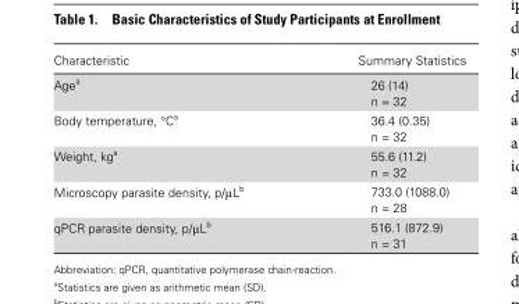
<table><thead><tr><td>Characteristic</td><td>Summary Statistics</td></tr></thead><tbody><tr><td>Age<sup>a</sup></td><td>26 (14) n = 32</td></tr><tr><td>Body temperature, °C<sup>a</sup></td><td>36.4 (0.35) n = 32</td></tr><tr><td>Weight, kg<sup>a</sup></td><td>55.6 (11.2) n = 32</td></tr><tr><td>Microscopy parasite density, p/μL<sup>b</sup></td><td>733.0 (1088.0) n = 28</td></tr><tr><td>qPCR parasite density, p/μL<sup>b</sup></td><td>516.1 (872.9) n = 31</td></tr></tbody></table>